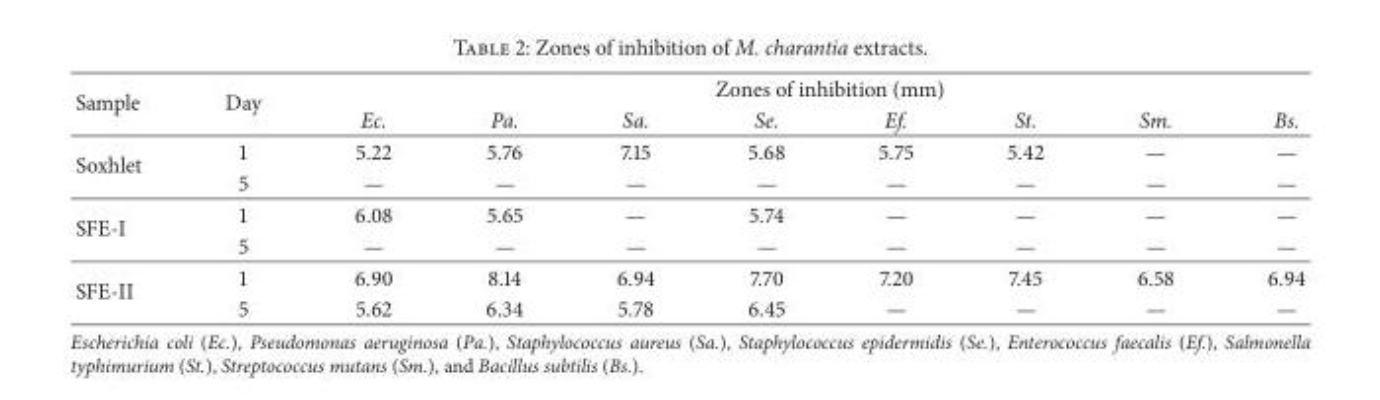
<table><thead><tr><td rowspan="2">Sample</td><td rowspan="2">Day</td><td colspan="8">Zones of inhibition (mm)</td></tr><tr><td>Ec.</td><td>Pa.</td><td>Sa.</td><td>Se.</td><td>Ef.</td><td>St.</td><td>Sm.</td><td>Bs.</td></tr></thead><tbody><tr><td rowspan="2">Soxhlet</td><td>1</td><td>5.22</td><td>5.76</td><td>7.15</td><td>5.68</td><td>5.75</td><td>5.42</td><td>—</td><td>—</td></tr><tr><td>5</td><td>—</td><td>—</td><td>—</td><td>—</td><td>—</td><td>—</td><td>—</td><td>—</td></tr><tr><td rowspan="2">SFE-I</td><td>1</td><td>6.08</td><td>5.65</td><td>—</td><td>5.74</td><td>—</td><td>—</td><td>—</td><td>—</td></tr><tr><td>5</td><td>—</td><td>—</td><td>—</td><td>—</td><td>—</td><td>—</td><td>—</td><td>—</td></tr><tr><td rowspan="2">SFE-II</td><td>1</td><td>6.90</td><td>8.14</td><td>6.94</td><td>7.70</td><td>7.20</td><td>7.45</td><td>6.58</td><td>6.94</td></tr><tr><td>5</td><td>5.62</td><td>6.34</td><td>5.78</td><td>6.45</td><td>—</td><td>—</td><td>—</td><td>—</td></tr></tbody></table>